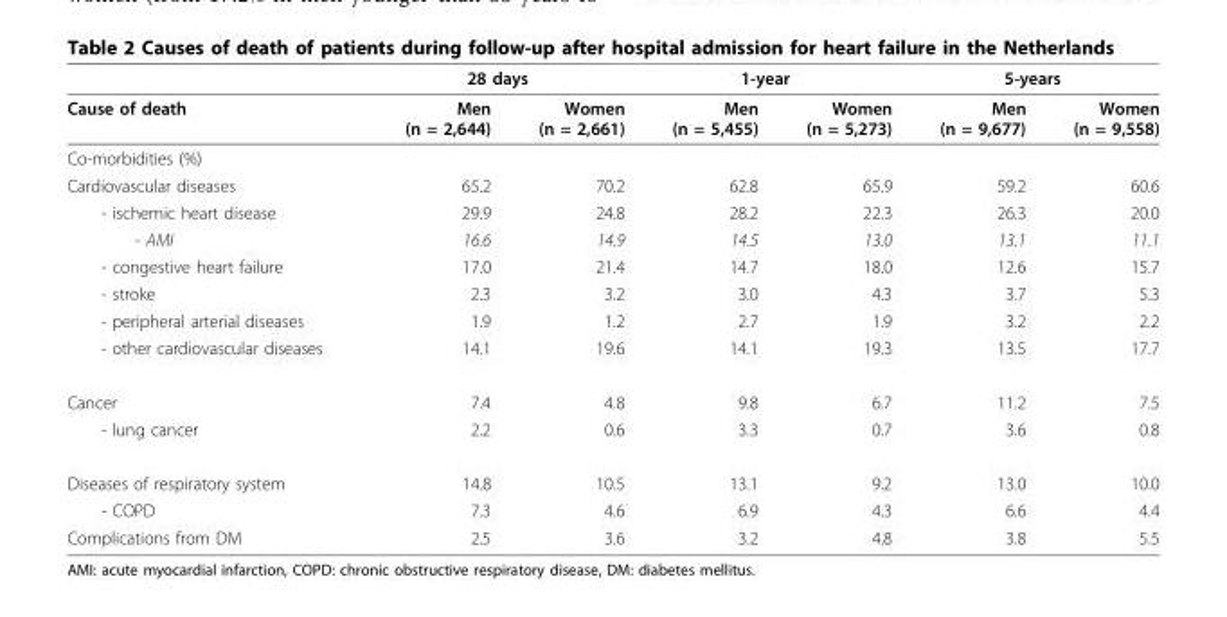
<table><thead><tr><td rowspan="2">Cause of death</td><td colspan="2">28 days</td><td colspan="2">1-year</td><td colspan="2">5-years</td></tr><tr><td>Men (n = 2,644)</td><td>Women (n = 2,661)</td><td>Men (n = 5,455)</td><td>Women (n = 5,273)</td><td>Men (n = 9,677)</td><td>Women (n = 9,558)</td></tr></thead><tbody><tr><td colspan="7">Co-morbidities (%)</td></tr><tr><td>Cardiovascular diseases</td><td>65.2</td><td>70.2</td><td>62.8</td><td>65.9</td><td>59.2</td><td>60.6</td></tr><tr><td>- ischemic heart disease</td><td>29.9</td><td>24.8</td><td>28.2</td><td>22.3</td><td>26.3</td><td>20.0</td></tr><tr><td>- AMI</td><td>16.6</td><td>14.9</td><td>14.5</td><td>13.0</td><td>13.1</td><td>11.1</td></tr><tr><td>- congestive heart failure</td><td>17.0</td><td>21.4</td><td>14.7</td><td>18.0</td><td>12.6</td><td>15.7</td></tr><tr><td>- stroke</td><td>2.3</td><td>3.2</td><td>3.0</td><td>4.3</td><td>3.7</td><td>5.3</td></tr><tr><td>- peripheral arterial diseases</td><td>1.9</td><td>1.2</td><td>2.7</td><td>1.9</td><td>3.2</td><td>2.2</td></tr><tr><td>- other cardiovascular diseases</td><td>14.1</td><td>19.6</td><td>14.1</td><td>19.3</td><td>13.5</td><td>17.7</td></tr><tr><td>Cancer</td><td>7.4</td><td>4.8</td><td>9.8</td><td>6.7</td><td>11.2</td><td>7.5</td></tr><tr><td>- lung cancer</td><td>2.2</td><td>0.6</td><td>3.3</td><td>0.7</td><td>3.6</td><td>0.8</td></tr><tr><td>Diseases of respiratory system</td><td>14.8</td><td>10.5</td><td>13.1</td><td>9.2</td><td>13.0</td><td>10.0</td></tr><tr><td>- COPD</td><td>7.3</td><td>4.6</td><td>6.9</td><td>4.3</td><td>6.6</td><td>4.4</td></tr><tr><td>Complications from DM</td><td>2.5</td><td>3.6</td><td>3.2</td><td>4.8</td><td>3.8</td><td>5.5</td></tr></tbody></table>